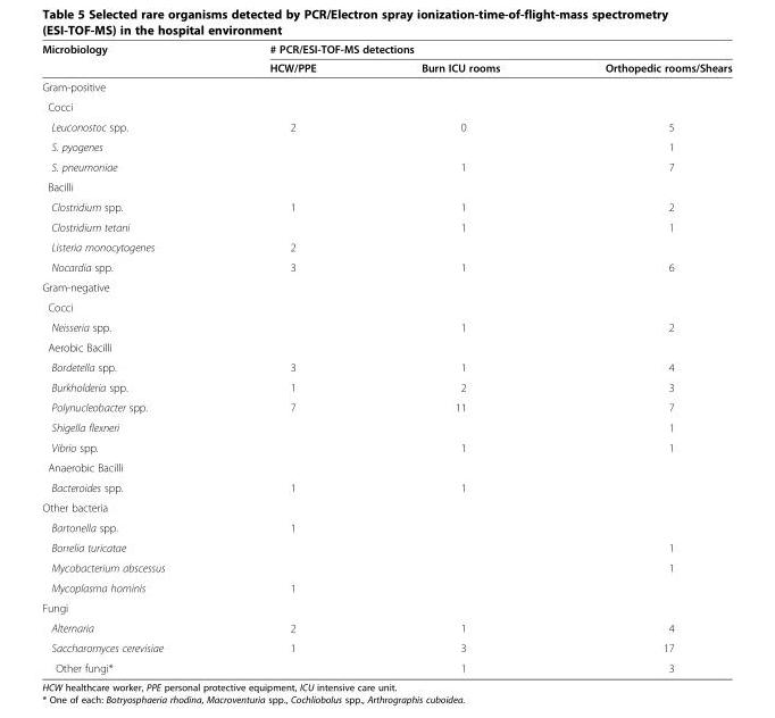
<table><thead><tr><td rowspan="2">Microbiology</td><td colspan="3"># PCR/ESI-TOF-MS detections</td></tr><tr><td>HCW/PPE</td><td>Burn ICU rooms</td><td>Orthopedic rooms/Shears</td></tr></thead><tbody><tr><td colspan="4">Gram-positive</td></tr><tr><td colspan="4">Cocci</td></tr><tr><td>Leuconostoc spp.</td><td>2</td><td>0</td><td>5</td></tr><tr><td>S. pyogenes</td><td></td><td></td><td>1</td></tr><tr><td>S. pneumoniae</td><td></td><td>1</td><td>7</td></tr><tr><td colspan="4">Bacilli</td></tr><tr><td>Clostridium spp.</td><td>1</td><td>1</td><td>2</td></tr><tr><td>Clostridium tetani</td><td></td><td>1</td><td>1</td></tr><tr><td>Listeria monocytogenes</td><td>2</td><td></td><td></td></tr><tr><td>Nocardia spp.</td><td>3</td><td>1</td><td>6</td></tr><tr><td colspan="4">Gram-negative</td></tr><tr><td colspan="4">Cocci</td></tr><tr><td>Neisseria spp.</td><td></td><td>1</td><td>2</td></tr><tr><td colspan="4">Aerobic Bacilli</td></tr><tr><td>Bordetella spp.</td><td>3</td><td>1</td><td>4</td></tr><tr><td>Burkholderia spp.</td><td>1</td><td>2</td><td>3</td></tr><tr><td>Polynucleobacter spp.</td><td>7</td><td>11</td><td>7</td></tr><tr><td>Shigella flexneri</td><td></td><td></td><td>1</td></tr><tr><td>Vibrio spp.</td><td></td><td>1</td><td>1</td></tr><tr><td colspan="4">Anaerobic Bacilli</td></tr><tr><td>Bacteroides spp.</td><td>1</td><td>1</td><td></td></tr><tr><td colspan="4">Other bacteria</td></tr><tr><td>Bartonella spp.</td><td>1</td><td></td><td></td></tr><tr><td>Borrelia turicatae</td><td></td><td></td><td>1</td></tr><tr><td>Mycobacterium abscessus</td><td></td><td></td><td>1</td></tr><tr><td>Mycoplasma hominis</td><td>1</td><td></td><td></td></tr><tr><td colspan="4">Fungi</td></tr><tr><td>Alternaria</td><td>2</td><td>1</td><td>4</td></tr><tr><td>Saccharomyces cerevisiae</td><td>1</td><td>3</td><td>17</td></tr><tr><td>Other fungi*</td><td></td><td>1</td><td>3</td></tr></tbody></table>